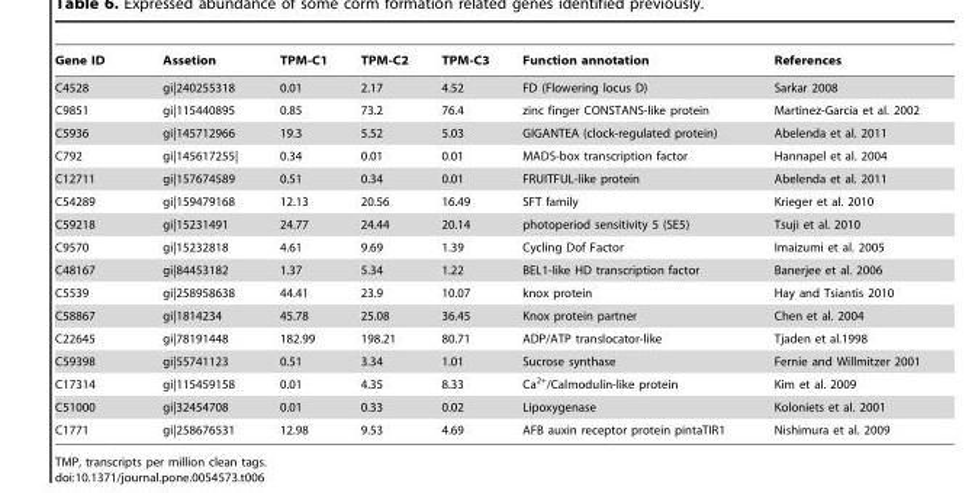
<table><thead><tr><td>Gene ID</td><td>Assetion</td><td>TPM-C1</td><td>TPM-C2</td><td>TPM-C3</td><td>Function annotation</td><td>References</td></tr></thead><tbody><tr><td>C4528</td><td>gi|240255318</td><td>0.01</td><td>2.17</td><td>4.52</td><td>FD (Flowering locus D)</td><td>Sarkar 2008</td></tr><tr><td>C9851</td><td>gi|115440895</td><td>0.85</td><td>73.2</td><td>76.4</td><td>zinc finger CONSTANS-like protein</td><td>Martinez-Garcia et al. 2002</td></tr><tr><td>C5936</td><td>gi|145712966</td><td>19.3</td><td>5.52</td><td>5.03</td><td>GIGANTEA (clock-regulated protein)</td><td>Abelenda et al. 2011</td></tr><tr><td>C792</td><td>gi|145617255|</td><td>0.34</td><td>0.01</td><td>0.01</td><td>MADS-box transcription factor</td><td>Hannapel et al. 2004</td></tr><tr><td>C12711</td><td>gi|157674589</td><td>0.51</td><td>0.34</td><td>0.01</td><td>FRUITFUL-like protein</td><td>Abelenda et al. 2011</td></tr><tr><td>C54289</td><td>gi|159479168</td><td>12.13</td><td>20.56</td><td>16.49</td><td>SFT family</td><td>Krieger et al. 2010</td></tr><tr><td>C59218</td><td>gi|15231491</td><td>24.77</td><td>24.44</td><td>20.14</td><td>photoperiod sensitivity 5 (SE5)</td><td>Tsuji et al. 2010</td></tr><tr><td>C9570</td><td>gi|15232818</td><td>4.61</td><td>9.69</td><td>1.39</td><td>Cycling Dof Factor</td><td>Imaizumi et al. 2005</td></tr><tr><td>C48167</td><td>gi|84453182</td><td>1.37</td><td>5.34</td><td>1.22</td><td>BEL1-like HD transcription factor</td><td>Banerjee et al. 2006</td></tr><tr><td>C5539</td><td>gi|258958638</td><td>44.41</td><td>23.9</td><td>10.07</td><td>knox protein</td><td>Hay and Tsiantis 2010</td></tr><tr><td>C58867</td><td>gi|1814234</td><td>45.78</td><td>25.08</td><td>36.45</td><td>Knox protein partner</td><td>Chen et al. 2004</td></tr><tr><td>C22645</td><td>gi|78191448</td><td>182.99</td><td>198.21</td><td>80.71</td><td>ADP/ATP translocator-like</td><td>Tjaden et al.1998</td></tr><tr><td>C59398</td><td>gi|55741123</td><td>0.51</td><td>3.34</td><td>1.01</td><td>Sucrose synthase</td><td>Fernie and Willmitzer 2001</td></tr><tr><td>C17314</td><td>gi|115459158</td><td>0.01</td><td>4.35</td><td>8.33</td><td>Ca<sup>2+</sup>/Calmodulin-like protein</td><td>Kim et al. 2009</td></tr><tr><td>C51000</td><td>gi|32454708</td><td>0.01</td><td>0.33</td><td>0.02</td><td>Lipoxygenase</td><td>Koloniets et al. 2001</td></tr><tr><td>C1771</td><td>gi|258676531</td><td>12.98</td><td>9.53</td><td>4.69</td><td>AFB auxin receptor protein pintaTIR1</td><td>Nishimura et al. 2009</td></tr></tbody></table>